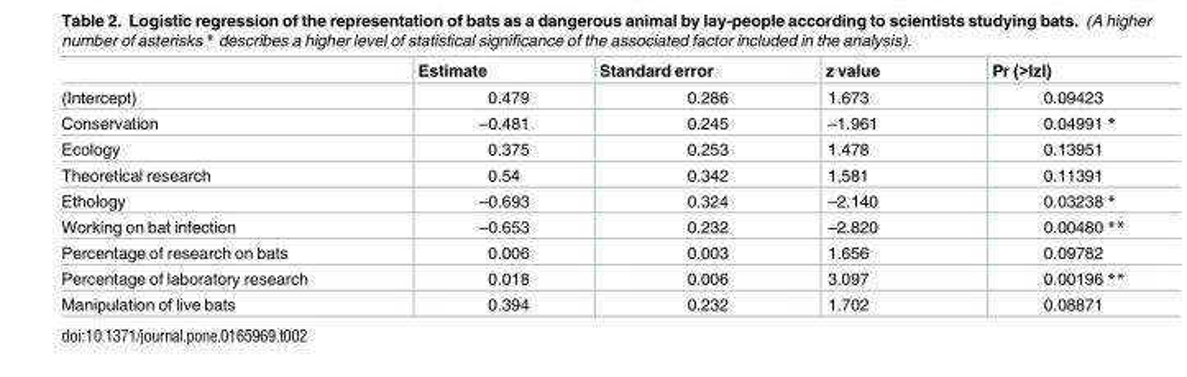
<table><thead><tr><td></td><td>Estimate</td><td>Standard error</td><td>z value</td><td>Pr (&gt;lzl)</td></tr></thead><tbody><tr><td>(Intercept)</td><td>0.479</td><td>0.286</td><td>1.673</td><td>0.09423</td></tr><tr><td>Conservation</td><td>–0.481</td><td>0.245</td><td>–1.961</td><td>0.04991 *</td></tr><tr><td>Ecology</td><td>0.375</td><td>0.253</td><td>1.478</td><td>0.13951</td></tr><tr><td>Theoretical research</td><td>0.54</td><td>0.342</td><td>1,581</td><td>0.11391</td></tr><tr><td>Ethology</td><td>–0.693</td><td>0.324</td><td>–2.140</td><td>0.03238 *</td></tr><tr><td>Working on bat infection</td><td>–0.653</td><td>0.232</td><td>–2.820</td><td>0.00480 **</td></tr><tr><td>Percentage of research on bats</td><td>0.006</td><td>0.003</td><td>1.656</td><td>0.09782</td></tr><tr><td>Percentage of laboratory research</td><td>0.018</td><td>0.006</td><td>3.097</td><td>0.00196 **</td></tr><tr><td>Manipulation of live bats</td><td>0.394</td><td>0.232</td><td>1.702</td><td>0.08871</td></tr></tbody></table>